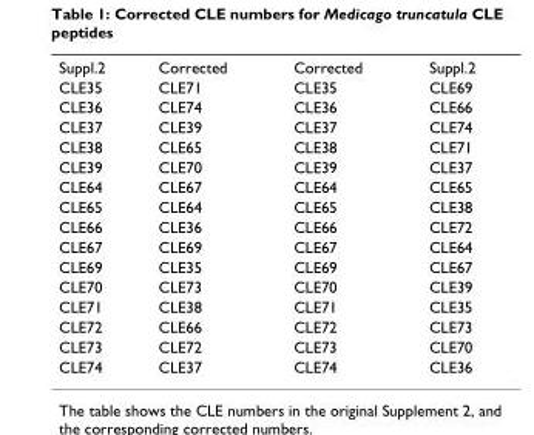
<table><tbody><tr><td>Suppl.2</td><td>Corrected</td><td>Corrected</td><td>Suppl.2</td></tr><tr><td>CLE35</td><td>CLE71</td><td>CLE35</td><td>CLE69</td></tr><tr><td>CLE36</td><td>CLE74</td><td>CLE36</td><td>CLE66</td></tr><tr><td>CLE37</td><td>CLE39</td><td>CLE37</td><td>CLE74</td></tr><tr><td>CLE38</td><td>CLE65</td><td>CLE38</td><td>CLE71</td></tr><tr><td>CLE39</td><td>CLE70</td><td>CLE39</td><td>CLE37</td></tr><tr><td>CLE64</td><td>CLE67</td><td>CLE64</td><td>CLE65</td></tr><tr><td>CLE65</td><td>CLE64</td><td>CLE65</td><td>CLE38</td></tr><tr><td>CLE66</td><td>CLE36</td><td>CLE66</td><td>CLE72</td></tr><tr><td>CLE67</td><td>CLE69</td><td>CLE67</td><td>CLE64</td></tr><tr><td>CLE69</td><td>CLE35</td><td>CLE69</td><td>CLE67</td></tr><tr><td>CLE70</td><td>CLE73</td><td>CLE70</td><td>CLE39</td></tr><tr><td>CLE71</td><td>CLE38</td><td>CLE71</td><td>CLE35</td></tr><tr><td>CLE72</td><td>CLE66</td><td>CLE72</td><td>CLE73</td></tr><tr><td>CLE73</td><td>CLE72</td><td>CLE73</td><td>CLE70</td></tr><tr><td>CLE74</td><td>CLE37</td><td>CLE74</td><td>CLE36</td></tr></tbody></table>